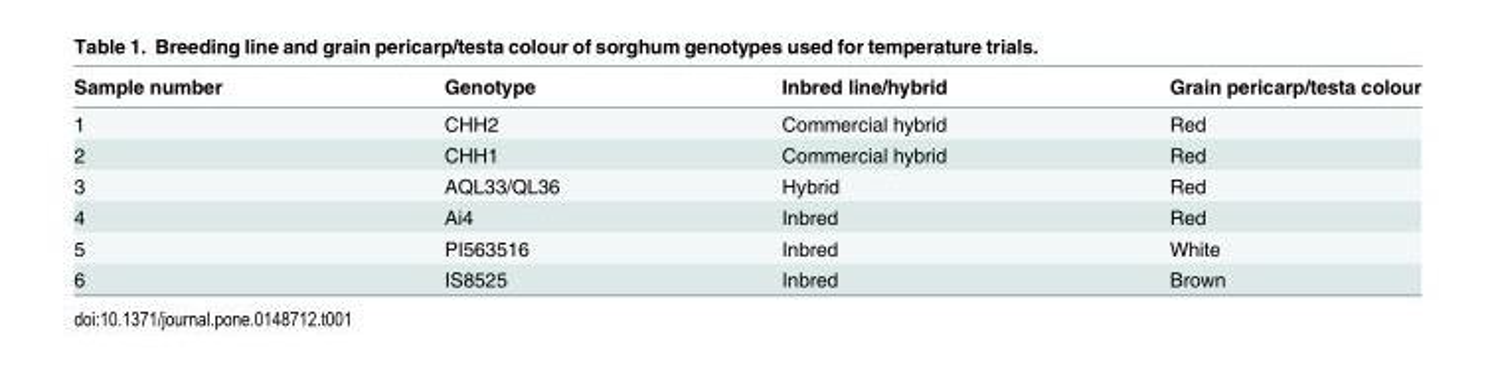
<table><thead><tr><td>Sample number</td><td>Genotype</td><td>Inbred line/hybrid</td><td>Grain pericarp/testa colour</td></tr></thead><tbody><tr><td>1</td><td>CHH2</td><td>Commercial hybrid</td><td>Red</td></tr><tr><td>2</td><td>CHH1</td><td>Commercial hybrid</td><td>Red</td></tr><tr><td>3</td><td>AQL33/QL36</td><td>Hybrid</td><td>Red</td></tr><tr><td>4</td><td>Ai4</td><td>Inbred</td><td>Red</td></tr><tr><td>5</td><td>PI563516</td><td>Inbred</td><td>White</td></tr><tr><td>6</td><td>IS8525</td><td>Inbred</td><td>Brown</td></tr></tbody></table>